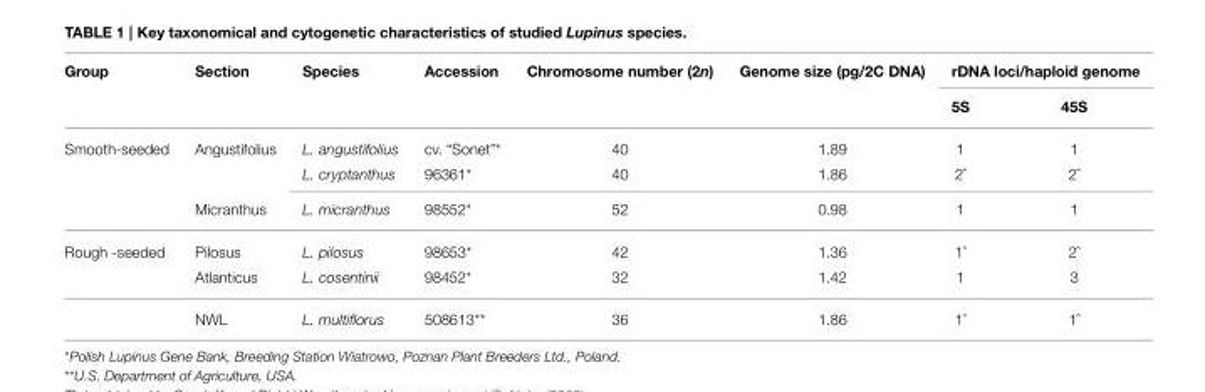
<table><thead><tr><td rowspan="2">Group</td><td rowspan="2">Section</td><td rowspan="2">Species</td><td rowspan="2">Accession</td><td rowspan="2">Chromosome number (2n)</td><td rowspan="2">Genome size (pg/2C DNA)</td><td colspan="2">rDNA loci/haploid genome</td></tr><tr><td>5S</td><td>45S</td></tr></thead><tbody><tr><td rowspan="3">Smooth-seeded</td><td>Angustifolius</td><td>L. angustifolius</td><td>cv. “Sonet”*</td><td>40</td><td>1.89</td><td>1</td><td>1</td></tr><tr><td></td><td>L. cryptanthus</td><td>96361*</td><td>40</td><td>1.86</td><td>2ˆ</td><td>2ˆ</td></tr><tr><td>Micranthus</td><td>L. micranthus</td><td>98552*</td><td>52</td><td>0.98</td><td>1</td><td>1</td></tr><tr><td rowspan="3">Rough -seeded</td><td>Pilosus</td><td>L. pilosus</td><td>98653*</td><td>42</td><td>1.36</td><td>1ˆ</td><td>2ˆ</td></tr><tr><td>Atlanticus</td><td>L. cosentinii</td><td>98452*</td><td>32</td><td>1.42</td><td>1</td><td>3</td></tr><tr><td>NWL</td><td>L. multiflorus</td><td>508613**</td><td>36</td><td>1.86</td><td>1ˆ</td><td>1ˆ</td></tr></tbody></table>